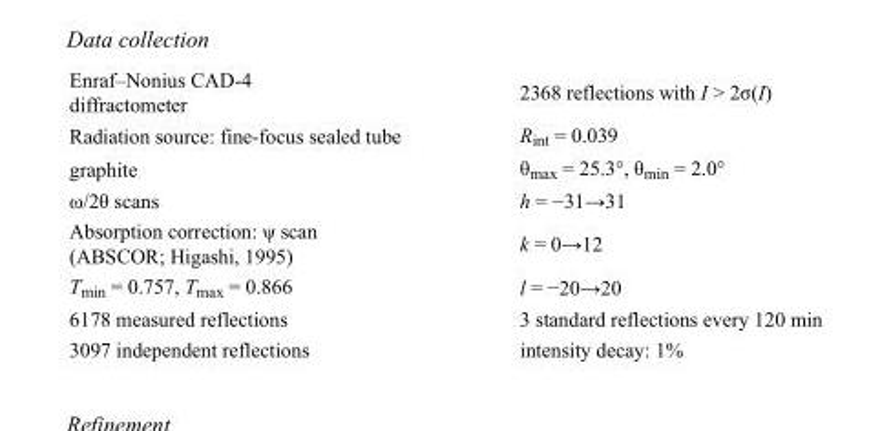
<table><tbody><tr><td>Enraf–Nonius CAD-4 diffractometer</td><td>2368 reflections with I &gt; 2σ(I)</td></tr><tr><td>Radiation source: fine-focus sealed tube</td><td>R<sub>int</sub> = 0.039</td></tr><tr><td>graphite</td><td>θ<sub>max</sub> = 25.3°, θ<sub>min</sub> = 2.0°</td></tr><tr><td>ω/2θ scans</td><td>h = −31→31</td></tr><tr><td>Absorption correction: ψ scan (ABSCOR; Higashi, 1995)</td><td>k = 0→12</td></tr><tr><td>T<sub>min</sub> = 0.757, T<sub>max</sub> = 0.866</td><td>l = −20→20</td></tr><tr><td>6178 measured reflections</td><td>3 standard reflections every 120 min</td></tr><tr><td>3097 independent reflections</td><td>intensity decay: 1%</td></tr></tbody></table>